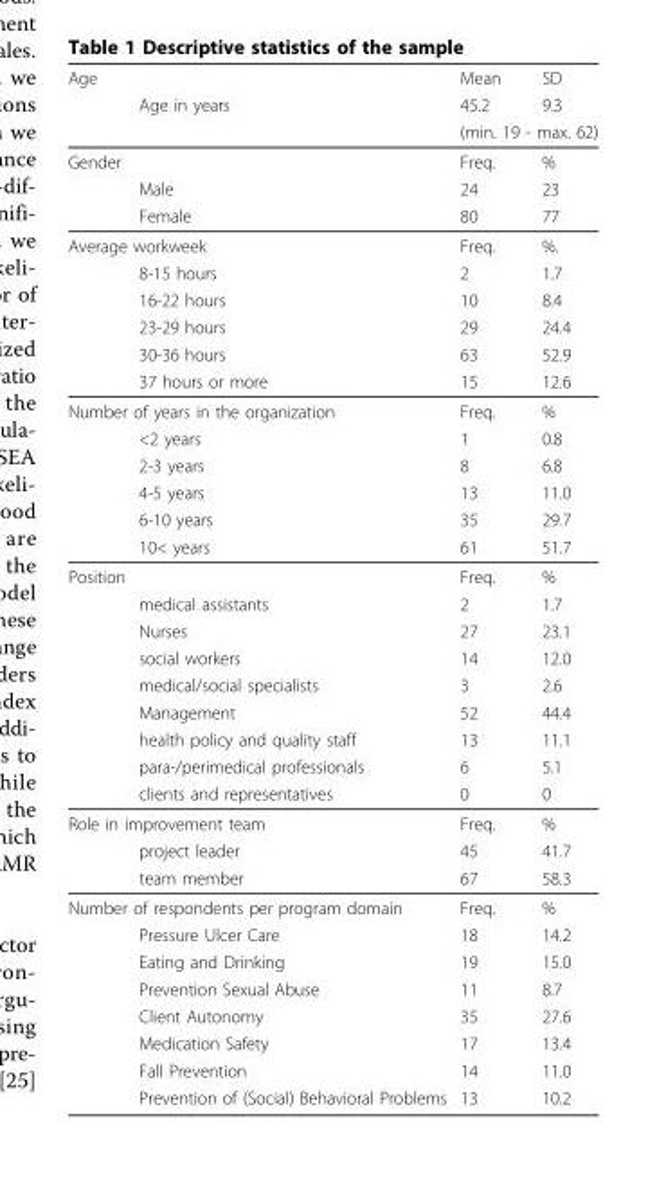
<table><thead><tr><td rowspan="3">Age</td><td rowspan="3">Age in years</td><td rowspan="2">Mean 45.2</td><td rowspan="2">SD 9.3</td></tr><tr></tr><tr><td colspan="2">(min. 19 - max. 62)</td></tr></thead><tbody><tr><td rowspan="3">Gender</td><td></td><td>Freq.</td><td>%</td></tr><tr><td>Male</td><td>24</td><td>23</td></tr><tr><td>Female</td><td>80</td><td>77</td></tr><tr><td colspan="2">Average workweek</td><td>Freq.</td><td>%.</td></tr><tr><td></td><td>8-15 hours</td><td>2</td><td>1.7</td></tr><tr><td></td><td>16-22 hours</td><td>10</td><td>8.4</td></tr><tr><td></td><td>23-29 hours</td><td>29</td><td>24.4</td></tr><tr><td></td><td>30-36 hours</td><td>63</td><td>52.9</td></tr><tr><td></td><td>37 hours or more</td><td>15</td><td>12.6</td></tr><tr><td colspan="2">Number of years in the organization</td><td>Freq.</td><td>%</td></tr><tr><td></td><td>&lt;2 years</td><td>1</td><td>0.8</td></tr><tr><td></td><td>2-3 years</td><td>8</td><td>6.8</td></tr><tr><td></td><td>4-5 years</td><td>13</td><td>11.0</td></tr><tr><td></td><td>6-10 years</td><td>35</td><td>29.7</td></tr><tr><td></td><td>10&lt; years</td><td>61</td><td>51.7</td></tr><tr><td rowspan="9">Position</td><td></td><td>Freq.</td><td>%</td></tr><tr><td>medical assistants</td><td>2</td><td>1.7</td></tr><tr><td>Nurses</td><td>27</td><td>23.1</td></tr><tr><td>social workers</td><td>14</td><td>12.0</td></tr><tr><td>medical/social specialists</td><td>3</td><td>2.6</td></tr><tr><td>Management</td><td>52</td><td>44.4</td></tr><tr><td>health policy and quality staff</td><td>13</td><td>11.1</td></tr><tr><td>para-/perimedical professionals</td><td>6</td><td>5.1</td></tr><tr><td>clients and representatives</td><td>0</td><td>0</td></tr><tr><td colspan="2">Role in improvement team</td><td>Freq.</td><td>%</td></tr><tr><td></td><td>project leader</td><td>45</td><td>41.7</td></tr><tr><td></td><td>team member</td><td>67</td><td>58.3</td></tr><tr><td colspan="2">Number of respondents per program domain</td><td>Freq.</td><td>%</td></tr><tr><td></td><td>Pressure Ulcer Care</td><td>18</td><td>14.2</td></tr><tr><td></td><td>Eating and Drinking</td><td>19</td><td>15.0</td></tr><tr><td></td><td>Prevention Sexual Abuse</td><td>11</td><td>8.7</td></tr><tr><td></td><td>Client Autonomy</td><td>35</td><td>27.6</td></tr><tr><td></td><td>Medication Safety</td><td>17</td><td>13.4</td></tr><tr><td></td><td>Fall Prevention</td><td>14</td><td>11.0</td></tr><tr><td></td><td>Prevention of (Social) Behavioral Problems</td><td>13</td><td>10.2</td></tr></tbody></table>